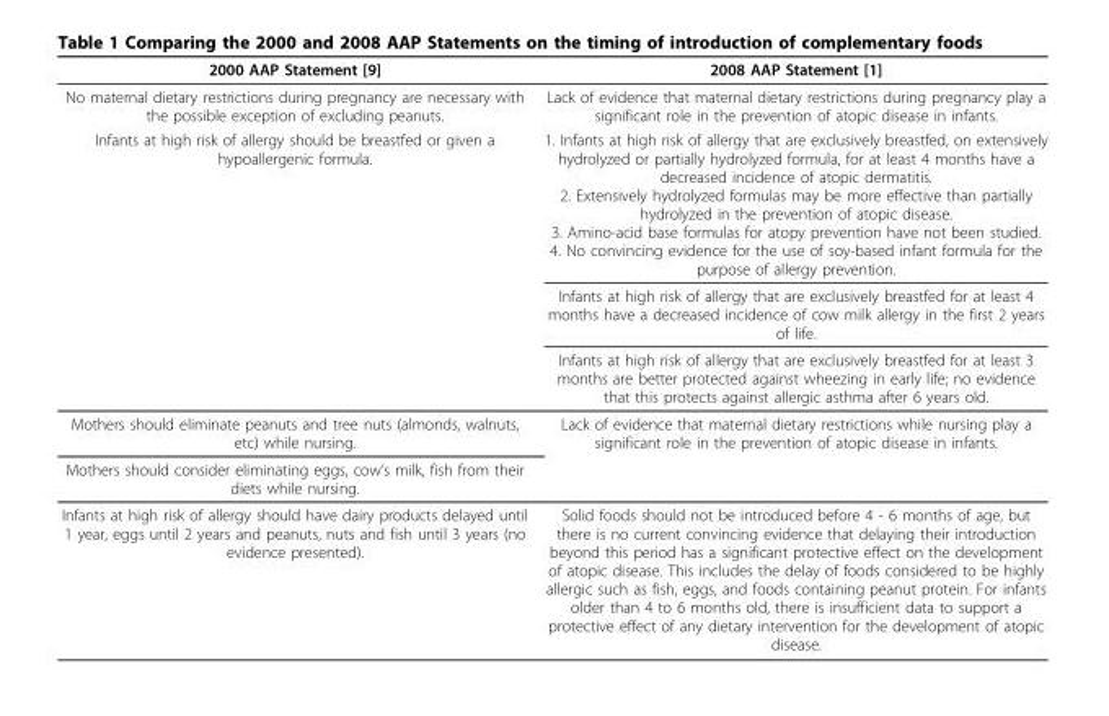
<table><thead><tr><td>2000 AAP Statement [9]</td><td>2008 AAP Statement [1]</td></tr></thead><tbody><tr><td>No maternal dietary restrictions during pregnancy are necessary with the possible exception of excluding peanuts.</td><td>Lack of evidence that maternal dietary restrictions during pregnancy play a significant role in the prevention of atopic disease in infants.</td></tr><tr><td rowspan="3">Infants at high risk of allergy should be breastfed or given a hypoallergenic formula.</td><td>1. Infants at high risk of allergy that are exclusively breastfed, on extensively hydrolyzed or partially hydrolyzed formula, for at least 4 months have a decreased incidence of atopic dermatitis. 2. Extensively hydrolyzed formulas may be more effective than partially hydrolyzed in the prevention of atopic disease. 3. Amino-acid base formulas for atopy prevention have not been studied. 4. No convincing evidence for the use of soy-based infant formula for the purpose of allergy prevention.</td></tr><tr><td>Infants at high risk of allergy that are exclusively breastfed for at least 4 months have a decreased incidence of cow milk allergy in the first 2 years of life.</td></tr><tr><td>Infants at high risk of allergy that are exclusively breastfed for at least 3 months are better protected against wheezing in early life; no evidence that this protects against allergic asthma after 6 years old.</td></tr><tr><td>Mothers should eliminate peanuts and tree nuts (almonds, walnuts, etc) while nursing.</td><td>Lack of evidence that maternal dietary restrictions while nursing play a significant role in the prevention of atopic disease in infants.</td></tr><tr><td colspan="2">Mothers should consider eliminating eggs, cow’s milk, fish from their diets while nursing.</td></tr><tr><td>Infants at high risk of allergy should have dairy products delayed until 1 year, eggs until 2 years and peanuts, nuts and fish until 3 years (no evidence presented).</td><td>Solid foods should not be introduced before 4 - 6 months of age, but there is no current convincing evidence that delaying their introduction beyond this period has a significant protective effect on the development of atopic disease. This includes the delay of foods considered to be highly allergic such as fish, eggs, and foods containing peanut protein. For infants older than 4 to 6 months old, there is insufficient data to support a protective effect of any dietary intervention for the development of atopic disease.</td></tr></tbody></table>